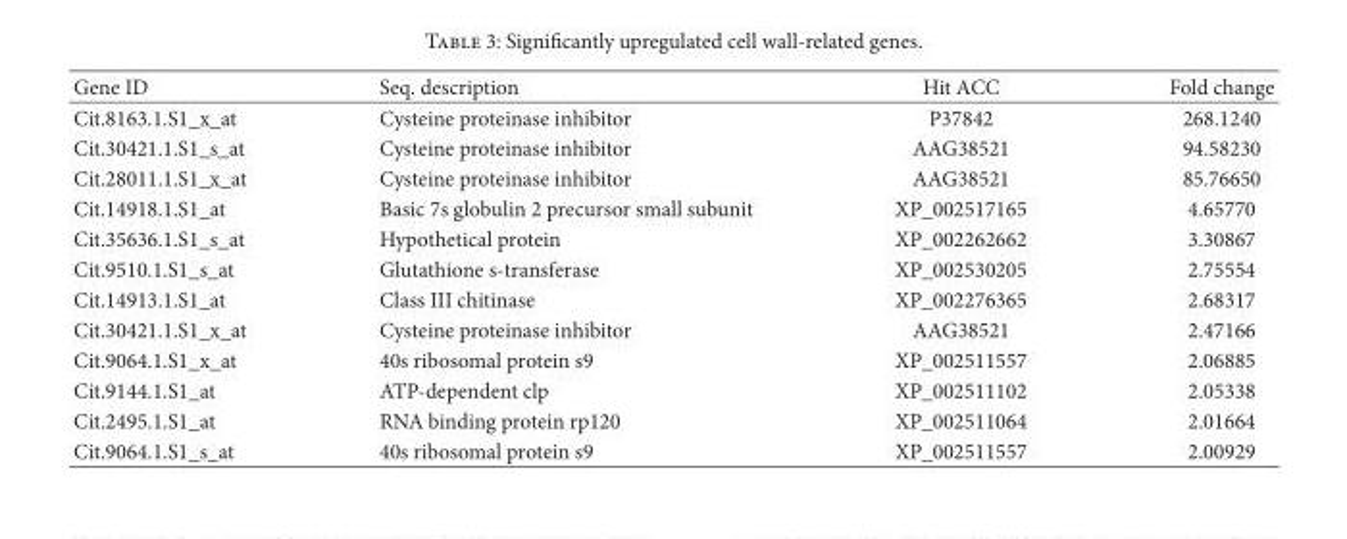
<table><thead><tr><td>Gene ID</td><td>Seq. description</td><td>Hit ACC</td><td>Fold change</td></tr></thead><tbody><tr><td>Cit.8163.1.S1_x_at</td><td>Cysteine proteinase inhibitor</td><td>P37842</td><td>268.1240</td></tr><tr><td>Cit.30421.1.S1_s_at</td><td>Cysteine proteinase inhibitor</td><td>AAG38521</td><td>94.58230</td></tr><tr><td>Cit.28011.1.S1_x_at</td><td>Cysteine proteinase inhibitor</td><td>AAG38521</td><td>85.76650</td></tr><tr><td>Cit.14918.1.S1_at</td><td>Basic 7s globulin 2 precursor small subunit</td><td>XP_002517165</td><td>4.65770</td></tr><tr><td>Cit.35636.1.S1_s_at</td><td>Hypothetical protein</td><td>XP_002262662</td><td>3.30867</td></tr><tr><td>Cit.9510.1.S1_s_at</td><td>Glutathione s-transferase</td><td>XP_002530205</td><td>2.75554</td></tr><tr><td>Cit.14913.1.S1_at</td><td>Class III chitinase</td><td>XP_002276365</td><td>2.68317</td></tr><tr><td>Cit.30421.1.S1_x_at</td><td>Cysteine proteinase inhibitor</td><td>AAG38521</td><td>2.47166</td></tr><tr><td>Cit.9064.1.S1_x_at</td><td>40s ribosomal protein s9</td><td>XP_002511557</td><td>2.06885</td></tr><tr><td>Cit.9144.1.S1_at</td><td>ATP-dependent clp</td><td>XP_002511102</td><td>2.05338</td></tr><tr><td>Cit.2495.1.S1_at</td><td>RNA binding protein rp120</td><td>XP_002511064</td><td>2.01664</td></tr><tr><td>Cit.9064.1.S1_s_at</td><td>40s ribosomal protein s9</td><td>XP_002511557</td><td>2.00929</td></tr></tbody></table>